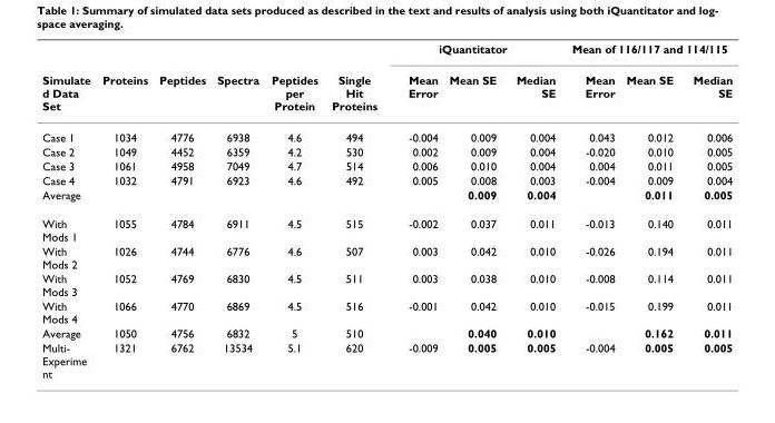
<table><thead><tr><td rowspan="2">Simulate d Data Set</td><td rowspan="2">Proteins</td><td rowspan="2">Peptides</td><td rowspan="2">Spectra</td><td rowspan="2">Peptides per Protein</td><td rowspan="2">Single Hit Proteins</td><td colspan="3">iQuantitator</td><td colspan="3">Mean of 116/117 and 114/115</td></tr><tr><td>Mean Error</td><td>Mean SE</td><td>Median SE</td><td>Mean Error</td><td>Mean SE</td><td>Median SE</td></tr></thead><tbody><tr><td>Case 1</td><td>1034</td><td>4776</td><td>6938</td><td>4.6</td><td>494</td><td>-0.004</td><td>0.009</td><td>0.004</td><td>0.043</td><td>0.012</td><td>0.006</td></tr><tr><td>Case 2</td><td>1049</td><td>4452</td><td>6359</td><td>4.2</td><td>530</td><td>0.002</td><td>0.009</td><td>0.004</td><td>-0.020</td><td>0.010</td><td>0.005</td></tr><tr><td>Case 3</td><td>1061</td><td>4958</td><td>7049</td><td>4.7</td><td>514</td><td>0.006</td><td>0.010</td><td>0.004</td><td>0.004</td><td>0.011</td><td>0.005</td></tr><tr><td>Case 4</td><td>1032</td><td>4791</td><td>6923</td><td>4.6</td><td>492</td><td>0.005</td><td>0.008</td><td>0.003</td><td>-0.004</td><td>0.009</td><td>0.004</td></tr><tr><td>Average</td><td></td><td></td><td></td><td></td><td></td><td></td><td>0.009</td><td>0.004</td><td></td><td>0.011</td><td>0.005</td></tr><tr><td>With Mods 1</td><td>1055</td><td>4784</td><td>6911</td><td>4.5</td><td>515</td><td>-0.002</td><td>0.037</td><td>0.011</td><td>-0.013</td><td>0.140</td><td>0.011</td></tr><tr><td>With Mods 2</td><td>1026</td><td>4744</td><td>6776</td><td>4.6</td><td>507</td><td>0.003</td><td>0.042</td><td>0.010</td><td>-0.026</td><td>0.194</td><td>0.011</td></tr><tr><td>With Mods 3</td><td>1052</td><td>4769</td><td>6830</td><td>4.5</td><td>511</td><td>0.003</td><td>0.038</td><td>0.010</td><td>-0.008</td><td>0.114</td><td>0.011</td></tr><tr><td>With Mods 4</td><td>1066</td><td>4770</td><td>6869</td><td>4.5</td><td>516</td><td>-0.001</td><td>0.042</td><td>0.010</td><td>-0.015</td><td>0.199</td><td>0.011</td></tr><tr><td>Average</td><td>1050</td><td>4756</td><td>6832</td><td>5</td><td>510</td><td></td><td>0.040</td><td>0.010</td><td></td><td>0.162</td><td>0.011</td></tr><tr><td>Multi- Experime nt</td><td>1321</td><td>6762</td><td>13534</td><td>5.1</td><td>620</td><td>-0.009</td><td>0.005</td><td>0.005</td><td>-0.004</td><td>0.005</td><td>0.005</td></tr></tbody></table>